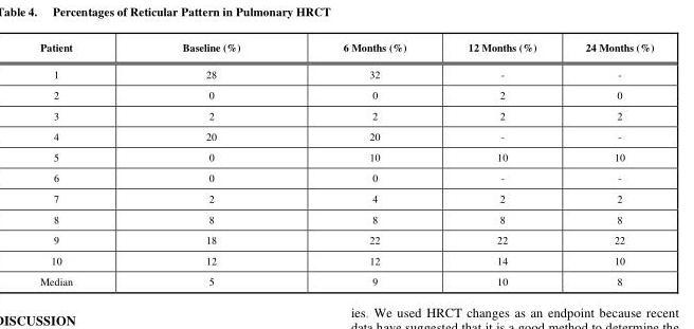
<table><thead><tr><td>Patient</td><td>Baseline (%)</td><td>6 Months (%)</td><td>12 Months (%)</td><td>24 Months (%)</td></tr></thead><tbody><tr><td>1</td><td>28</td><td>32</td><td>-</td><td>-</td></tr><tr><td>2</td><td>0</td><td>0</td><td>2</td><td>0</td></tr><tr><td>3</td><td>2</td><td>2</td><td>2</td><td>2</td></tr><tr><td>4</td><td>20</td><td>20</td><td>-</td><td>-</td></tr><tr><td>5</td><td>0</td><td>10</td><td>10</td><td>10</td></tr><tr><td>6</td><td>0</td><td>0</td><td>-</td><td>-</td></tr><tr><td>7</td><td>2</td><td>4</td><td>2</td><td>2</td></tr><tr><td>8</td><td>8</td><td>8</td><td>8</td><td>8</td></tr><tr><td>9</td><td>18</td><td>22</td><td>22</td><td>22</td></tr><tr><td>10</td><td>12</td><td>12</td><td>14</td><td>10</td></tr><tr><td>Median</td><td>5</td><td>9</td><td>10</td><td>8</td></tr></tbody></table>